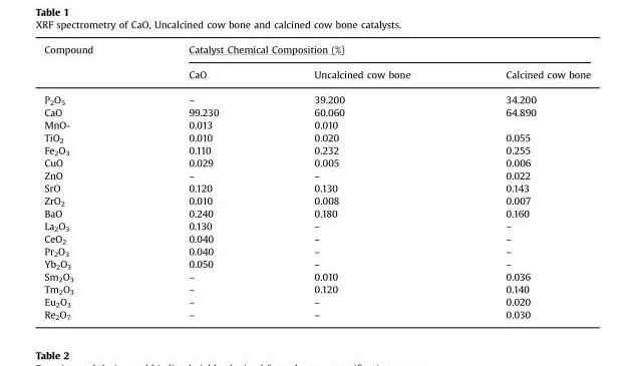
<table><thead><tr><td rowspan="2">Compound</td><td colspan="3">Catalyst Chemical Composition (%)</td></tr><tr><td>CaO</td><td>Uncalcined cow bone</td><td>Calcined cow bone</td></tr></thead><tbody><tr><td>P<sub>2</sub>O<sub>5</sub></td><td>–</td><td>39.200</td><td>34.200</td></tr><tr><td>CaO</td><td>99.230</td><td>60.060</td><td>64.890</td></tr><tr><td>MnO-</td><td>0.013</td><td>0.010</td><td></td></tr><tr><td>TiO<sub>2</sub></td><td>0.010</td><td>0.020</td><td>0.055</td></tr><tr><td>Fe<sub>2</sub>O<sub>3</sub></td><td>0.110</td><td>0.232</td><td>0.255</td></tr><tr><td>CuO</td><td>0.029</td><td>0.005</td><td>0.006</td></tr><tr><td>ZnO</td><td>–</td><td>–</td><td>0.022</td></tr><tr><td>SrO</td><td>0.120</td><td>0.130</td><td>0.143</td></tr><tr><td>ZrO<sub>2</sub></td><td>0.010</td><td>0.008</td><td>0.007</td></tr><tr><td>BaO</td><td>0.240</td><td>0.180</td><td>0.160</td></tr><tr><td>La<sub>2</sub>O<sub>3</sub></td><td>0.130</td><td>–</td><td>–</td></tr><tr><td>CeO<sub>2</sub></td><td>0.040</td><td>–</td><td>–</td></tr><tr><td>Pr<sub>2</sub>O<sub>3</sub></td><td>0.040</td><td>–</td><td>–</td></tr><tr><td>Yb<sub>2</sub>O<sub>3</sub></td><td>0.050</td><td>–</td><td>–</td></tr><tr><td>Sm<sub>2</sub>O<sub>3</sub></td><td>–</td><td>0.010</td><td>0.036</td></tr><tr><td>Tm<sub>2</sub>O<sub>3</sub></td><td>–</td><td>0.120</td><td>0.140</td></tr><tr><td>Eu<sub>2</sub>O<sub>3</sub></td><td>–</td><td>–</td><td>0.020</td></tr><tr><td>Re<sub>2</sub>O<sub>7</sub></td><td>–</td><td>–</td><td>0.030</td></tr></tbody></table>